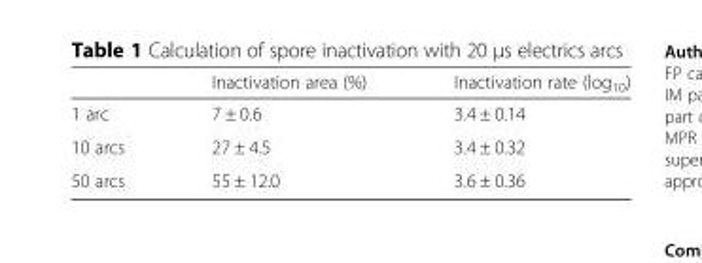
<table><thead><tr><td></td><td>Inactivation area (%)</td><td>Inactivation rate (log<sub>10</sub>)</td></tr></thead><tbody><tr><td>1 arc</td><td>7 ± 0.6</td><td>3.4 ± 0.14</td></tr><tr><td>10 arcs</td><td>27 ± 4.5</td><td>3.4 ± 0.32</td></tr><tr><td>50 arcs</td><td>55 ± 12.0</td><td>3.6 ± 0.36</td></tr></tbody></table>